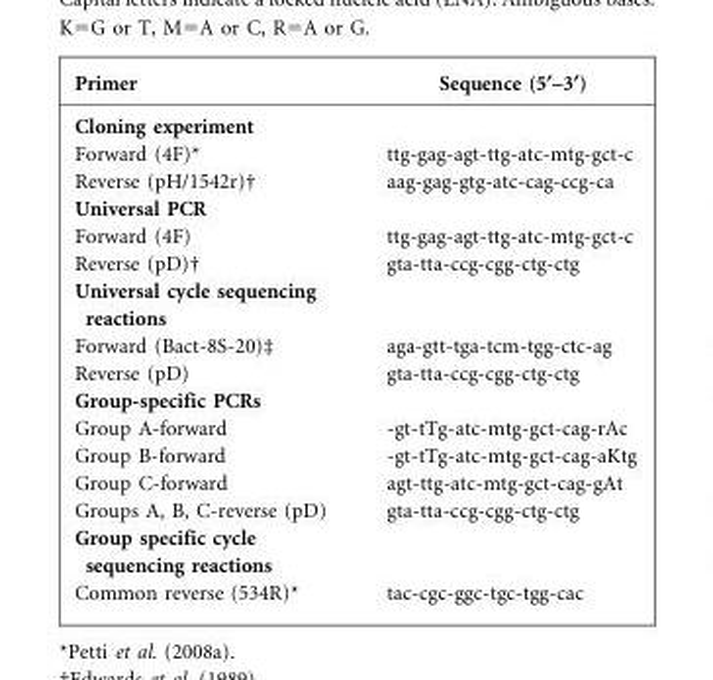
<table><thead><tr><td>Primer</td><td>Sequence (5§–3§)</td></tr></thead><tbody><tr><td colspan="2">Cloning experiment</td></tr><tr><td>Forward (4F)*</td><td>ttg-gag-agt-ttg-atc-mtg-gct-c</td></tr><tr><td>Reverse (pH/1542r)†</td><td>aag-gag-gtg-atc-cag-ccg-ca</td></tr><tr><td colspan="2">Universal PCR</td></tr><tr><td>Forward (4F)</td><td>ttg-gag-agt-ttg-atc-mtg-gct-c</td></tr><tr><td>Reverse (pD)†</td><td>gta-tta-ccg-cgg-ctg-ctg</td></tr><tr><td colspan="2">Universal cycle sequencing reactions</td></tr><tr><td>Forward (Bact-8S-20)‡</td><td>aga-gtt-tga-tcm-tgg-ctc-ag</td></tr><tr><td>Reverse (pD)</td><td>gta-tta-ccg-cgg-ctg-ctg</td></tr><tr><td colspan="2">Group-specific PCRs</td></tr><tr><td>Group A-forward</td><td>-gt-tTg-atc-mtg-gct-cag-rAc</td></tr><tr><td>Group B-forward</td><td>-gt-tTg-atc-mtg-gct-cag-aKtg</td></tr><tr><td>Group C-forward</td><td>agt-ttg-atc-mtg-gct-cag-gAt</td></tr><tr><td>Groups A, B, C-reverse (pD)</td><td>gta-tta-ccg-cgg-ctg-ctg</td></tr><tr><td colspan="2">Group specific cycle sequencing reactions</td></tr><tr><td>Common reverse (534R)*</td><td>tac-cgc-ggc-tgc-tgg-cac</td></tr></tbody></table>